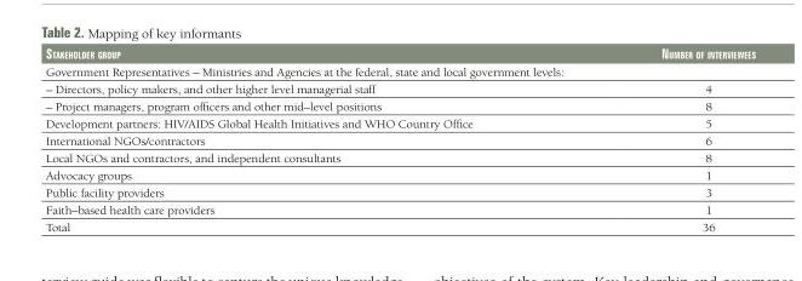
<table><thead><tr><td>stakeHolDer Group</td><td>number of IntervIewees</td></tr></thead><tbody><tr><td colspan="2">Government Representatives – Ministries and Agencies at the federal, state and local government levels:</td></tr><tr><td>– Directors, policy makers, and other higher level managerial staff</td><td>4</td></tr><tr><td>– Project managers, program officers and other mid–level positions</td><td>8</td></tr><tr><td>Development partners: HIV/AIDS Global Health Initiatives and WHO Country Office</td><td>5</td></tr><tr><td>International NGOs/contractors</td><td>6</td></tr><tr><td>Local NGOs and contractors, and independent consultants</td><td>8</td></tr><tr><td>Advocacy groups</td><td>1</td></tr><tr><td>Public facility providers</td><td>3</td></tr><tr><td>Faith–based health care providers</td><td>1</td></tr><tr><td>Total</td><td>36</td></tr></tbody></table>